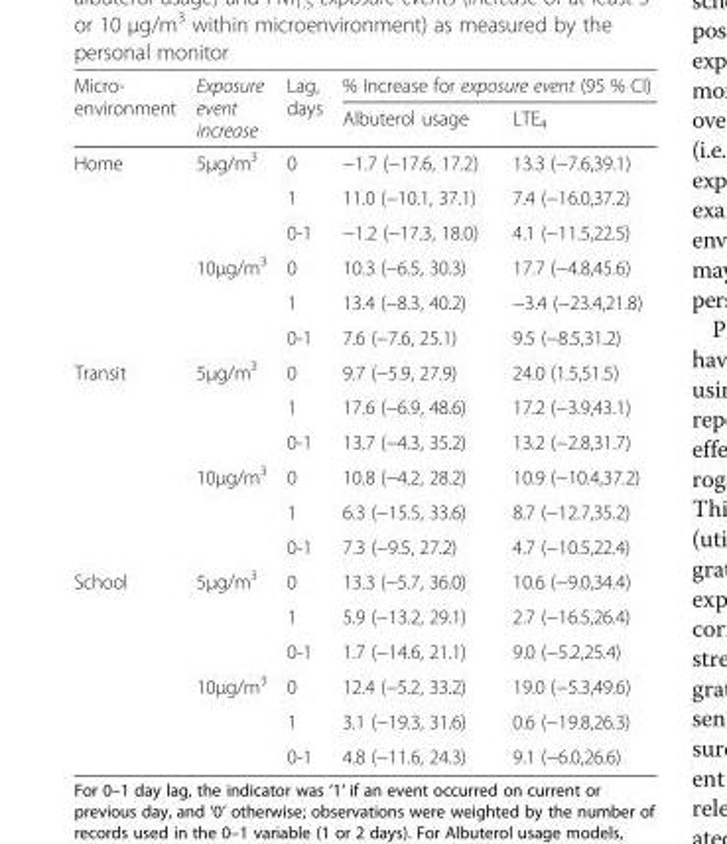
<table><thead><tr><td rowspan="2">Micro- environment</td><td rowspan="2">Exposure event increase</td><td rowspan="2">Lag, days</td><td colspan="2">% Increase for exposure event (95 % CI)</td></tr><tr><td>Albuterol usage</td><td>LTE<sub>4</sub></td></tr></thead><tbody><tr><td rowspan="6">Home</td><td rowspan="3">5μg/m<sup>3</sup></td><td>0</td><td>−1.7 (−17.6, 17.2)</td><td>13.3 (−7.6,39.1)</td></tr><tr><td>1</td><td>11.0 (−10.1, 37.1)</td><td>7.4 (−16.0,37.2)</td></tr><tr><td>0-1</td><td>−1.2 (−17.3, 18.0)</td><td>4.1 (−11.5,22.5)</td></tr><tr><td rowspan="3">10μg/m<sup>3</sup></td><td>0</td><td>10.3 (−6.5, 30.3)</td><td>17.7 (−4.8,45.6)</td></tr><tr><td>1</td><td>13.4 (−8.3, 40.2)</td><td>−3.4 (−23.4,21.8)</td></tr><tr><td>0-1</td><td>7.6 (−7.6, 25.1)</td><td>9.5 (−8.5,31.2)</td></tr><tr><td rowspan="6">Transit</td><td rowspan="3">5μg/m<sup>3</sup></td><td>0</td><td>9.7 (−5.9, 27.9)</td><td>24.0 (1.5,51.5)</td></tr><tr><td>1</td><td>17.6 (−6.9, 48.6)</td><td>17.2 (−3.9,43.1)</td></tr><tr><td>0-1</td><td>13.7 (−4.3, 35.2)</td><td>13.2 (−2.8,31.7)</td></tr><tr><td rowspan="3">10μg/m<sup>3</sup></td><td>0</td><td>10.8 (−4.2, 28.2)</td><td>10.9 (−10.4,37.2)</td></tr><tr><td>1</td><td>6.3 (−15.5, 33.6)</td><td>8.7 (−12.7,35.2)</td></tr><tr><td>0-1</td><td>7.3 (−9.5, 27.2)</td><td>4.7 (−10.5,22.4)</td></tr><tr><td rowspan="6">School</td><td rowspan="3">5μg/m<sup>3</sup></td><td>0</td><td>13.3 (−5.7, 36.0)</td><td>10.6 (−9.0,34.4)</td></tr><tr><td>1</td><td>5.9 (−13.2, 29.1)</td><td>2.7 (−16.5,26.4)</td></tr><tr><td>0-1</td><td>1.7 (−14.6, 21.1)</td><td>9.0 (−5.2,25.4)</td></tr><tr><td rowspan="3">10μg/m<sup>3</sup></td><td>0</td><td>12.4 (−5.2, 33.2)</td><td>19.0 (−5.3,49.6)</td></tr><tr><td>1</td><td>3.1 (−19.3, 31.6)</td><td>0.6 (−19.8,26.3)</td></tr><tr><td>0-1</td><td>4.8 (−11.6, 24.3)</td><td>9.1 (−6.0,26.6)</td></tr></tbody></table>